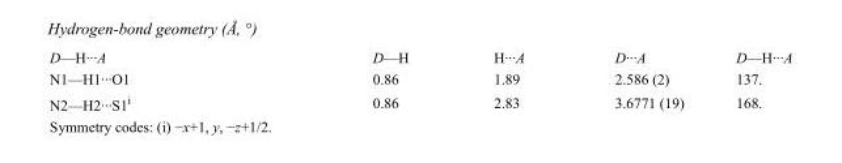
<table><tbody><tr><td>D—H···A</td><td>D—H</td><td>H···A</td><td>D···A</td><td>D—H···A</td></tr><tr><td>N1—H1···O1</td><td>0.86</td><td>1.89</td><td>2.586 (2)</td><td>137.</td></tr><tr><td>N2—H2···S1<sup>i</sup></td><td>0.86</td><td>2.83</td><td>3.6771 (19)</td><td>168.</td></tr></tbody></table>